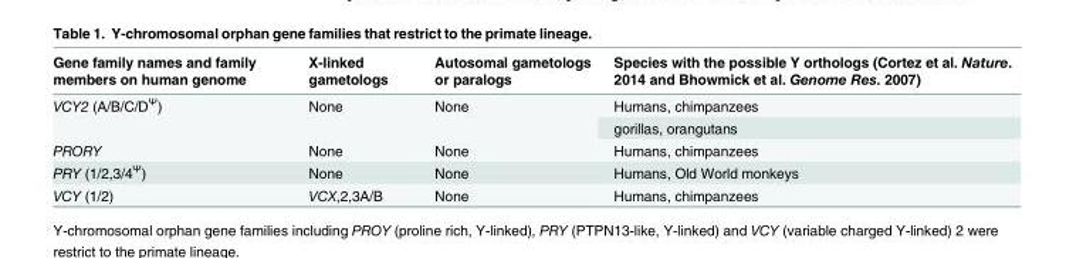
<table><thead><tr><td>Gene family names and family members on human genome</td><td>X-linked gametologs</td><td>Autosomal gametologs or paralogs</td><td>Species with the possible Y orthologs (Cortez et al. Nature. 2014 and Bhowmick et al. Genome Res. 2007)</td></tr></thead><tbody><tr><td rowspan="2">VCY2 (A/B/C/D<sup>Ψ</sup>)</td><td rowspan="2">None</td><td rowspan="2">None</td><td>Humans, chimpanzees</td></tr><tr><td>gorillas, orangutans</td></tr><tr><td>PRORY</td><td>None</td><td>None</td><td>Humans, chimpanzees</td></tr><tr><td>PRY (1/2,3/4<sup>Ψ</sup>)</td><td>None</td><td>None</td><td>Humans, Old World monkeys</td></tr><tr><td>VCY (1/2)</td><td>VCX,2,3A/B</td><td>None</td><td>Humans, chimpanzees</td></tr></tbody></table>